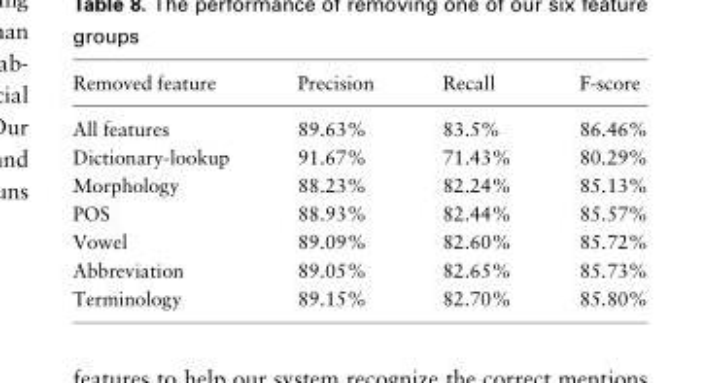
<table><thead><tr><td>Removed feature</td><td>Precision</td><td>Recall</td><td>F-score</td></tr></thead><tbody><tr><td>All features</td><td>89.63%</td><td>83.5%</td><td>86.46%</td></tr><tr><td>Dictionary-lookup</td><td>91.67%</td><td>71.43%</td><td>80.29%</td></tr><tr><td>Morphology</td><td>88.23%</td><td>82.24%</td><td>85.13%</td></tr><tr><td>POS</td><td>88.93%</td><td>82.44%</td><td>85.57%</td></tr><tr><td>Vowel</td><td>89.09%</td><td>82.60%</td><td>85.72%</td></tr><tr><td>Abbreviation</td><td>89.05%</td><td>82.65%</td><td>85.73%</td></tr><tr><td>Terminology</td><td>89.15%</td><td>82.70%</td><td>85.80%</td></tr></tbody></table>